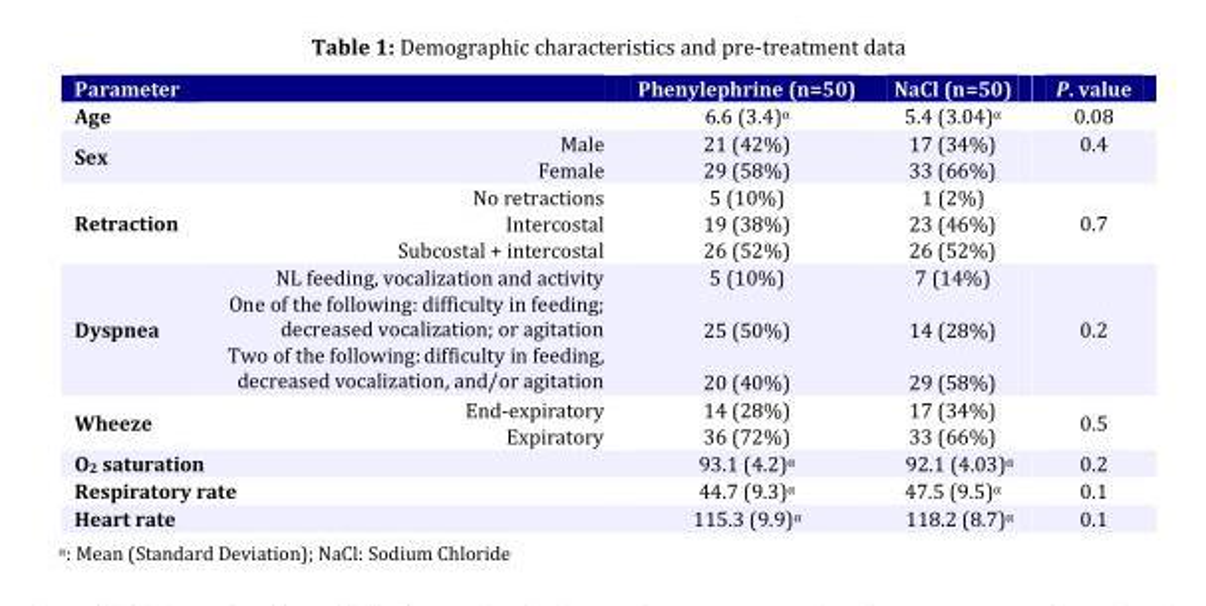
<table><thead><tr><td colspan="2">Parameter</td><td rowspan="2">Phenylephrine (n=50) 6.6 (3.4)α</td><td rowspan="2">NaCl (n=50) 5.4 (3.04)α</td><td rowspan="2">P. value 0.08</td></tr><tr><td>Age</td><td></td></tr></thead><tbody><tr><td>Sex</td><td>Male Female</td><td>21 (42%) 29 (58%)</td><td>17 (34%) 33 (66%)</td><td>0.4</td></tr><tr><td>Retraction</td><td>No retractions Intercostal Subcostal + intercostal</td><td>5 (10%) 19 (38%) 26 (52%)</td><td>1 (2%) 23 (46%) 26 (52%)</td><td>0.7</td></tr><tr><td>Dyspnea</td><td>NL feeding, vocalization and activity One of the following: difficulty in feeding; decreased vocalization; or agitation Two of the following: difficulty in feeding, decreased vocalization, and/or agitation</td><td>5 (10%) 25 (50%) 20 (40%)</td><td>7 (14%) 14 (28%) 29 (58%)</td><td>0.2</td></tr><tr><td>Wheeze</td><td>End-expiratory Expiratory</td><td>14 (28%) 36 (72%)</td><td>17 (34%) 33 (66%)</td><td>0.5</td></tr><tr><td colspan="2">O<sub>2</sub> saturation</td><td>93.1 (4.2)α</td><td>92.1 (4.03)α</td><td>0.2</td></tr><tr><td colspan="2">Respiratory rate</td><td>44.7 (9.3)α</td><td>47.5 (9.5)α</td><td>0.1</td></tr><tr><td colspan="2">Heart rate</td><td>115.3 (9.9)α</td><td>118.2 (8.7)α</td><td>0.1</td></tr></tbody></table>